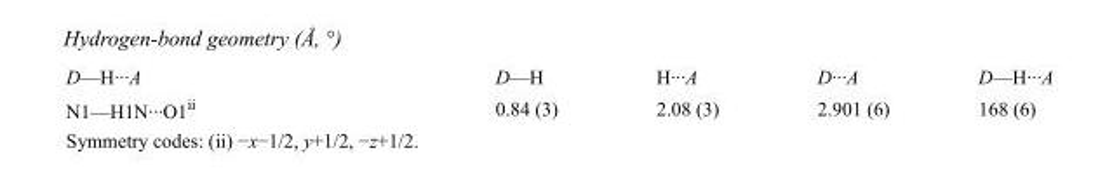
<table><tbody><tr><td>D—H···A</td><td>D—H</td><td>H···A</td><td>D···A</td><td>D—H···A</td></tr><tr><td>N1—H1N···O1<sup>ii</sup></td><td>0.84 (3)</td><td>2.08 (3)</td><td>2.901 (6)</td><td>168 (6)</td></tr></tbody></table>